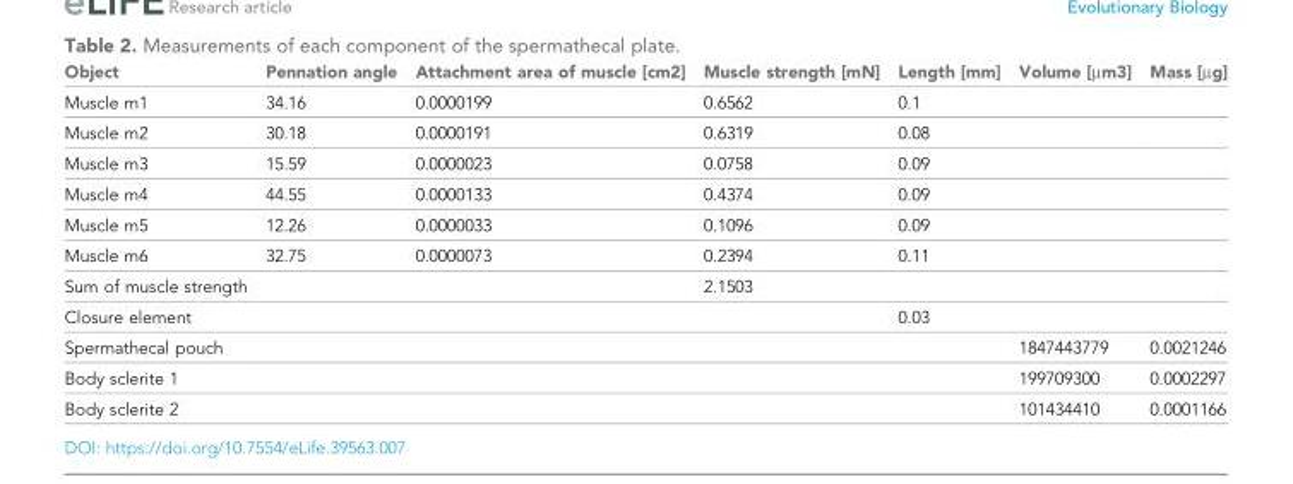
<table><thead><tr><td>Object</td><td>Pennation angle</td><td>Attachment area of muscle [cm2]</td><td>Muscle strength [mN]</td><td>Length [mm]</td><td>Volume [µm3]</td><td>Mass [µg]</td></tr></thead><tbody><tr><td>Muscle m1</td><td>34.16</td><td>0.0000199</td><td>0.6562</td><td>0.1</td><td></td><td></td></tr><tr><td>Muscle m2</td><td>30.18</td><td>0.0000191</td><td>0.6319</td><td>0.08</td><td></td><td></td></tr><tr><td>Muscle m3</td><td>15.59</td><td>0.0000023</td><td>0.0758</td><td>0.09</td><td></td><td></td></tr><tr><td>Muscle m4</td><td>44.55</td><td>0.0000133</td><td>0.4374</td><td>0.09</td><td></td><td></td></tr><tr><td>Muscle m5</td><td>12.26</td><td>0.0000033</td><td>0.1096</td><td>0.09</td><td></td><td></td></tr><tr><td>Muscle m6</td><td>32.75</td><td>0.0000073</td><td>0.2394</td><td>0.11</td><td></td><td></td></tr><tr><td>Sum of muscle strength</td><td></td><td></td><td>2.1503</td><td></td><td></td><td></td></tr><tr><td>Closure element</td><td></td><td></td><td></td><td>0.03</td><td></td><td></td></tr><tr><td>Spermathecal pouch</td><td></td><td></td><td></td><td></td><td>1847443779</td><td>0.0021246</td></tr><tr><td>Body sclerite 1</td><td></td><td></td><td></td><td></td><td>199709300</td><td>0.0002297</td></tr><tr><td>Body sclerite 2</td><td></td><td></td><td></td><td></td><td>101434410</td><td>0.0001166</td></tr></tbody></table>